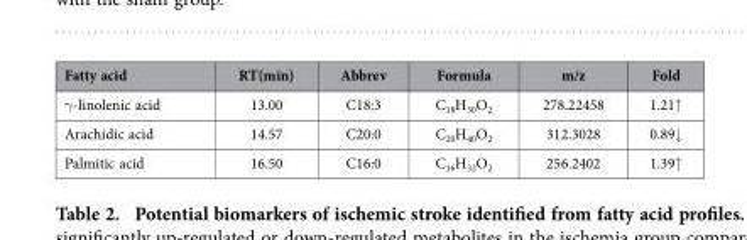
<table><thead><tr><td>Fatty acid</td><td>RT(min)</td><td>Abbrev</td><td>Formula</td><td>m/z</td><td>Fold</td></tr></thead><tbody><tr><td>γ -linolenic acid</td><td>13.00</td><td>C18:3</td><td>C<sub>18</sub>H<sub>30</sub>O<sub>2</sub></td><td>278.22458</td><td>1.21↑</td></tr><tr><td>Arachidic acid</td><td>14.57</td><td>C20:0</td><td>C<sub>20</sub>H<sub>40</sub>O<sub>2</sub></td><td>312.3028</td><td>0.89↓</td></tr><tr><td>Palmitic acid</td><td>16.50</td><td>C16:0</td><td>C<sub>16</sub>H<sub>32</sub>O<sub>2</sub></td><td>256.2402</td><td>1.39↑</td></tr></tbody></table>